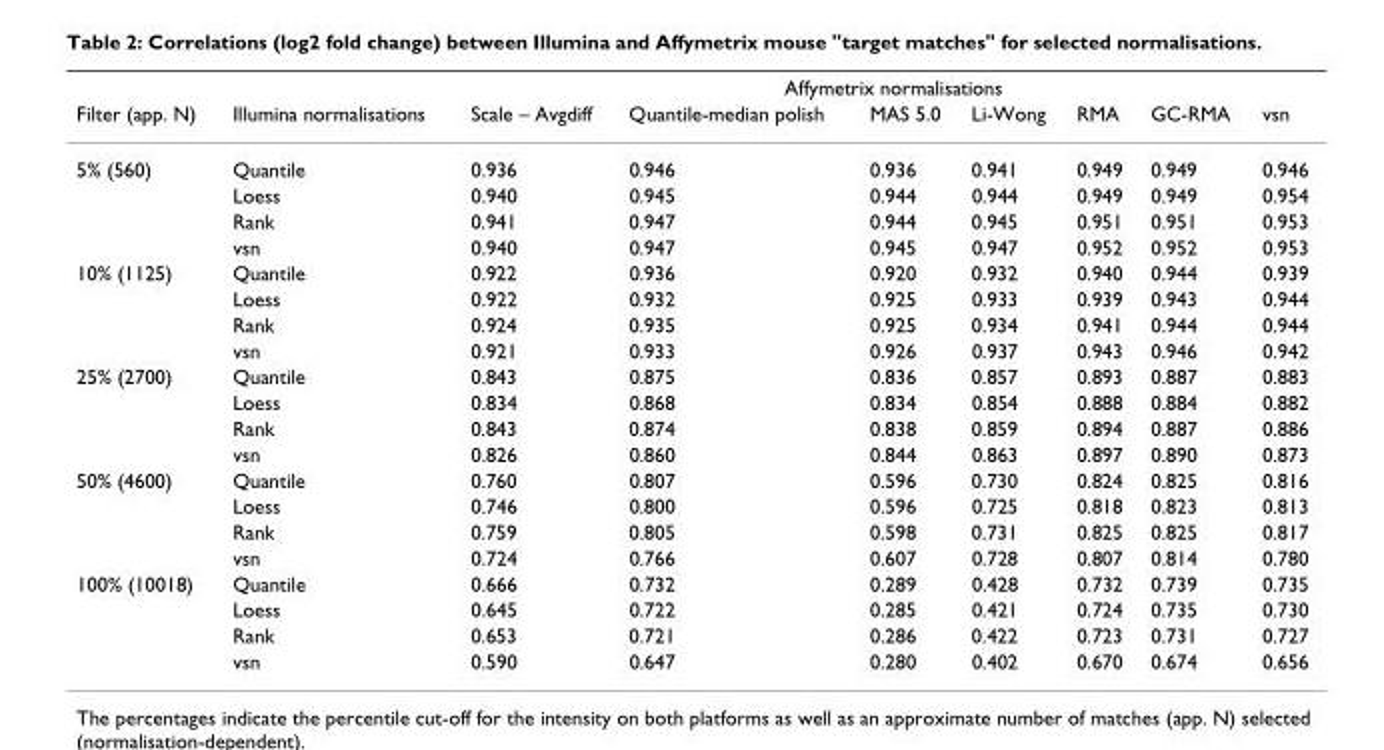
<table><thead><tr><td rowspan="2">Filter (app. N)</td><td rowspan="2">Illumina normalisations</td><td colspan="7">Affymetrix normalisations</td></tr><tr><td>Scale – Avgdiff</td><td>Quantile-median polish</td><td>MAS 5.0</td><td>Li-Wong</td><td>RMA</td><td>GC-RMA</td><td>vsn</td></tr></thead><tbody><tr><td rowspan="4">5% (560)</td><td>Quantile</td><td>0.936</td><td>0.946</td><td>0.936</td><td>0.941</td><td>0.949</td><td>0.949</td><td>0.946</td></tr><tr><td>Loess</td><td>0.940</td><td>0.945</td><td>0.944</td><td>0.944</td><td>0.949</td><td>0.949</td><td>0.954</td></tr><tr><td>Rank</td><td>0.941</td><td>0.947</td><td>0.944</td><td>0.945</td><td>0.951</td><td>0.951</td><td>0.953</td></tr><tr><td>vsn</td><td>0.940</td><td>0.947</td><td>0.945</td><td>0.947</td><td>0.952</td><td>0.952</td><td>0.953</td></tr><tr><td rowspan="4">10% (1125)</td><td>Quantile</td><td>0.922</td><td>0.936</td><td>0.920</td><td>0.932</td><td>0.940</td><td>0.944</td><td>0.939</td></tr><tr><td>Loess</td><td>0.922</td><td>0.932</td><td>0.925</td><td>0.933</td><td>0.939</td><td>0.943</td><td>0.944</td></tr><tr><td>Rank</td><td>0.924</td><td>0.935</td><td>0.925</td><td>0.934</td><td>0.941</td><td>0.944</td><td>0.944</td></tr><tr><td>vsn</td><td>0.921</td><td>0.933</td><td>0.926</td><td>0.937</td><td>0.943</td><td>0.946</td><td>0.942</td></tr><tr><td rowspan="4">25% (2700)</td><td>Quantile</td><td>0.843</td><td>0.875</td><td>0.836</td><td>0.857</td><td>0.893</td><td>0.887</td><td>0.883</td></tr><tr><td>Loess</td><td>0.834</td><td>0.868</td><td>0.834</td><td>0.854</td><td>0.888</td><td>0.884</td><td>0.882</td></tr><tr><td>Rank</td><td>0.843</td><td>0.874</td><td>0.838</td><td>0.859</td><td>0.894</td><td>0.887</td><td>0.886</td></tr><tr><td>vsn</td><td>0.826</td><td>0.860</td><td>0.844</td><td>0.863</td><td>0.897</td><td>0.890</td><td>0.873</td></tr><tr><td rowspan="4">50% (4600)</td><td>Quantile</td><td>0.760</td><td>0.807</td><td>0.596</td><td>0.730</td><td>0.824</td><td>0.825</td><td>0.816</td></tr><tr><td>Loess</td><td>0.746</td><td>0.800</td><td>0.596</td><td>0.725</td><td>0.818</td><td>0.823</td><td>0.813</td></tr><tr><td>Rank</td><td>0.759</td><td>0.805</td><td>0.598</td><td>0.731</td><td>0.825</td><td>0.825</td><td>0.817</td></tr><tr><td>vsn</td><td>0.724</td><td>0.766</td><td>0.607</td><td>0.728</td><td>0.807</td><td>0.814</td><td>0.780</td></tr><tr><td rowspan="4">100% (10018)</td><td>Quantile</td><td>0.666</td><td>0.732</td><td>0.289</td><td>0.428</td><td>0.732</td><td>0.739</td><td>0.735</td></tr><tr><td>Loess</td><td>0.645</td><td>0.722</td><td>0.285</td><td>0.421</td><td>0.724</td><td>0.735</td><td>0.730</td></tr><tr><td>Rank</td><td>0.653</td><td>0.721</td><td>0.286</td><td>0.422</td><td>0.723</td><td>0.731</td><td>0.727</td></tr><tr><td>vsn</td><td>0.590</td><td>0.647</td><td>0.280</td><td>0.402</td><td>0.670</td><td>0.674</td><td>0.656</td></tr></tbody></table>